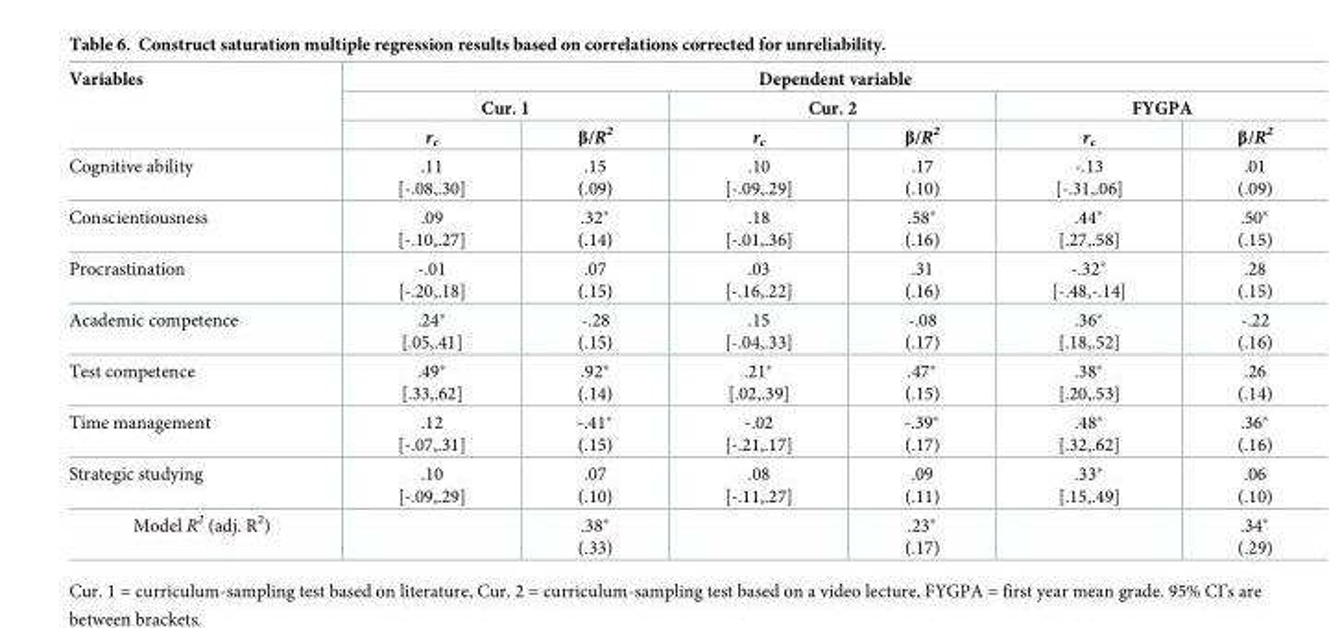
<table><thead><tr><td rowspan="3">Variables</td><td colspan="6">Dependent variable</td></tr><tr><td colspan="2">Cur. 1</td><td colspan="2">Cur. 2</td><td colspan="2">FYGPA</td></tr><tr><td>r<sub>c</sub></td><td>β/R<sup>2</sup></td><td>r<sub>c</sub></td><td>β/R<sup>2</sup></td><td>r<sub>c</sub></td><td>β/R<sup>2</sup></td></tr></thead><tbody><tr><td>Cognitive ability</td><td>.11 [-.08,.30]</td><td>.15 (.09)</td><td>.10 [-.09,.29]</td><td>.17 (.10)</td><td>-.13 [-.31,.06]</td><td>.01 (.09)</td></tr><tr><td>Conscientiousness</td><td>.09 [-.10,.27]</td><td>.32* (.14)</td><td>.18 [-.01,.36]</td><td>.58* (.16)</td><td>.44* [.27,.58]</td><td>.50* (.15)</td></tr><tr><td>Procrastination</td><td>-.01 [-.20,.18]</td><td>.07 (.15)</td><td>.03 [-.16,.22]</td><td>.31 (.16)</td><td>-.32* [-.48,-.14]</td><td>.28 (.15)</td></tr><tr><td>Academic competence</td><td>.24* [.05,.41]</td><td>-.28 (.15)</td><td>.15 [-.04,.33]</td><td>-.08 (.17)</td><td>.36* [.18,.52]</td><td>-.22 (.16)</td></tr><tr><td>Test competence</td><td>.49* [.33,.62]</td><td>.92* (.14)</td><td>.21* [.02,.39]</td><td>.47* (.15)</td><td>.38* [.20,.53]</td><td>.26 (.14)</td></tr><tr><td>Time management</td><td>.12 [-.07,.31]</td><td>-.41* (.15)</td><td>-.02 [-.21,.17]</td><td>-.39* (.17)</td><td>.48* [.32,.62]</td><td>.36* (.16)</td></tr><tr><td>Strategic studying</td><td>.10 [-.09,.29]</td><td>.07 (.10)</td><td>.08 [-.11,.27]</td><td>.09 (.11)</td><td>.33* [.15,.49]</td><td>.06 (.10)</td></tr><tr><td>Model R<sup>2</sup> (adj. R<sup>2</sup>)</td><td></td><td>.38* (.33)</td><td></td><td>.23* (.17)</td><td></td><td>.34* (.29)</td></tr></tbody></table>